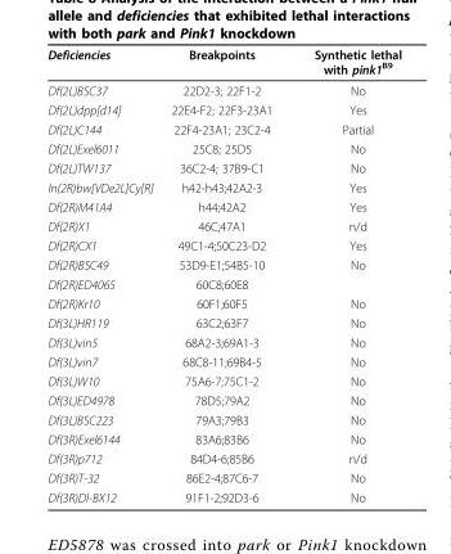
<table><thead><tr><td>Deficiencies</td><td>Breakpoints</td><td>Synthetic lethal with pink1<sup>B9</sup></td></tr></thead><tbody><tr><td>Df(2L)BSC37</td><td>22D2-3; 22F1-2</td><td>No</td></tr><tr><td>Df(2L)dpp[d14]</td><td>22E4-F2; 22F3-23A1</td><td>Yes</td></tr><tr><td>Df(2L)C144</td><td>22F4-23A1; 23C2-4</td><td>Partial</td></tr><tr><td>Df(2L)Exel6011</td><td>25C8; 25D5</td><td>No</td></tr><tr><td>Df(2L)TW137</td><td>36C2-4; 37B9-C1</td><td>No</td></tr><tr><td>In(2R)bw[VDe2L]Cy[R]</td><td>h42-h43;42A2-3</td><td>Yes</td></tr><tr><td>Df(2R)M41A4</td><td>h44;42A2</td><td>Yes</td></tr><tr><td>Df(2R)X1</td><td>46C;47A1</td><td>n/d</td></tr><tr><td>Df(2R)CX1</td><td>49C1-4;50C23-D2</td><td>Yes</td></tr><tr><td>Df(2R)BSC49</td><td>53D9-E1;54B5-10</td><td>No</td></tr><tr><td>Df(2R)ED4065</td><td>60C8;60E8</td><td></td></tr><tr><td>Df(2R)Kr10</td><td>60F1;60F5</td><td>No</td></tr><tr><td>Df(3L)HR119</td><td>63C2;63F7</td><td>No</td></tr><tr><td>Df(3L)vin5</td><td>68A2-3;69A1-3</td><td>No</td></tr><tr><td>Df(3L)vin7</td><td>68C8-11;69B4-5</td><td>No</td></tr><tr><td>Df(3L)W10</td><td>75A6-7;75C1-2</td><td>No</td></tr><tr><td>Df(3L)ED4978</td><td>78D5;79A2</td><td>No</td></tr><tr><td>Df(3L)BSC223</td><td>79A3;79B3</td><td>No</td></tr><tr><td>Df(3R)Exel6144</td><td>83A6;83B6</td><td>No</td></tr><tr><td>Df(3R)p712</td><td>84D4-6;85B6</td><td>n/d</td></tr><tr><td>Df(3R)T-32</td><td>86E2-4;87C6-7</td><td>No</td></tr><tr><td>Df(3R)Dl-BX12</td><td>91F1-2;92D3-6</td><td>No</td></tr></tbody></table>